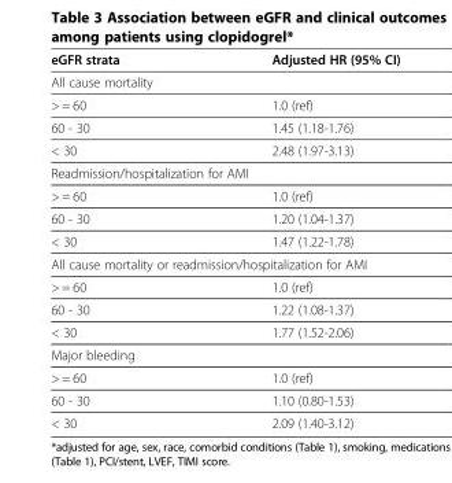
<table><thead><tr><td>eGFR strata</td><td>Adjusted HR (95% CI)</td></tr></thead><tbody><tr><td colspan="2">All cause mortality</td></tr><tr><td>&gt; = 60</td><td>1.0 (ref)</td></tr><tr><td>60 - 30</td><td>1.45 (1.18-1.76)</td></tr><tr><td>&lt; 30</td><td>2.48 (1.97-3.13)</td></tr><tr><td colspan="2">Readmission/hospitalization for AMI</td></tr><tr><td>&gt; = 60</td><td>1.0 (ref)</td></tr><tr><td>60 - 30</td><td>1.20 (1.04-1.37)</td></tr><tr><td>&lt; 30</td><td>1.47 (1.22-1.78)</td></tr><tr><td colspan="2">All cause mortality or readmission/hospitalization for AMI</td></tr><tr><td>&gt; = 60</td><td>1.0 (ref)</td></tr><tr><td>60 - 30</td><td>1.22 (1.08-1.37)</td></tr><tr><td>&lt; 30</td><td>1.77 (1.52-2.06)</td></tr><tr><td colspan="2">Major bleeding</td></tr><tr><td>&gt; = 60</td><td>1.0 (ref)</td></tr><tr><td>60 - 30</td><td>1.10 (0.80-1.53)</td></tr><tr><td>&lt; 30</td><td>2.09 (1.40-3.12)</td></tr></tbody></table>